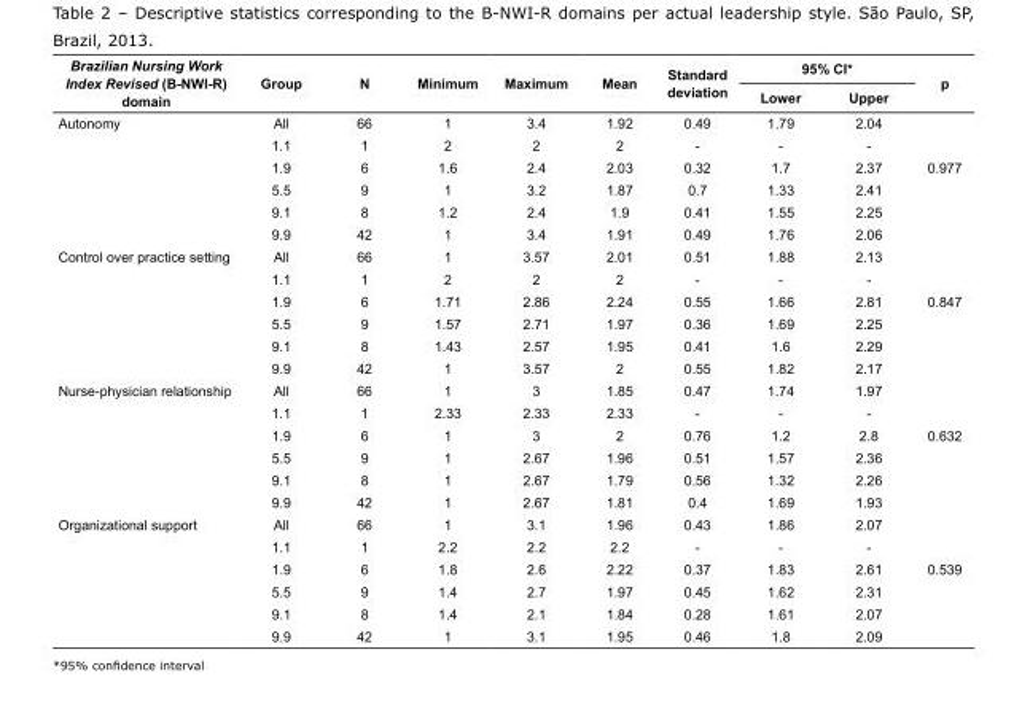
<table><thead><tr><td rowspan="2">Brazilian Nursing Work Index Revised (B-NWI-R) domain</td><td rowspan="2">Group</td><td rowspan="2">N</td><td rowspan="2">Minimum</td><td rowspan="2">Maximum</td><td rowspan="2">Mean</td><td rowspan="2">Standard deviation</td><td colspan="2">95% CI*</td><td rowspan="2">p</td></tr><tr><td>Lower</td><td>Upper</td></tr></thead><tbody><tr><td rowspan="6">Autonomy</td><td>All</td><td>66</td><td>1</td><td>3.4</td><td>1.92</td><td>0.49</td><td>1.79</td><td>2.04</td><td></td></tr><tr><td>1.1</td><td>1</td><td>2</td><td>2</td><td>2</td><td>-</td><td>-</td><td>-</td><td></td></tr><tr><td>1.9</td><td>6</td><td>1.6</td><td>2.4</td><td>2.03</td><td>0.32</td><td>1.7</td><td>2.37</td><td>0.977</td></tr><tr><td>5.5</td><td>9</td><td>1</td><td>3.2</td><td>1.87</td><td>0.7</td><td>1.33</td><td>2.41</td><td></td></tr><tr><td>9.1</td><td>8</td><td>1.2</td><td>2.4</td><td>1.9</td><td>0.41</td><td>1.55</td><td>2.25</td><td></td></tr><tr><td>9.9</td><td>42</td><td>1</td><td>3.4</td><td>1.91</td><td>0.49</td><td>1.76</td><td>2.06</td><td></td></tr><tr><td rowspan="6">Control over practice setting</td><td>All</td><td>66</td><td>1</td><td>3.57</td><td>2.01</td><td>0.51</td><td>1.88</td><td>2.13</td><td></td></tr><tr><td>1.1</td><td>1</td><td>2</td><td>2</td><td>2</td><td>-</td><td>-</td><td>-</td><td></td></tr><tr><td>1.9</td><td>6</td><td>1.71</td><td>2.86</td><td>2.24</td><td>0.55</td><td>1.66</td><td>2.81</td><td>0.847</td></tr><tr><td>5.5</td><td>9</td><td>1.57</td><td>2.71</td><td>1.97</td><td>0.36</td><td>1.69</td><td>2.25</td><td></td></tr><tr><td>9.1</td><td>8</td><td>1.43</td><td>2.57</td><td>1.95</td><td>0.41</td><td>1.6</td><td>2.29</td><td></td></tr><tr><td>9.9</td><td>42</td><td>1</td><td>3.57</td><td>2</td><td>0.55</td><td>1.82</td><td>2.17</td><td></td></tr><tr><td rowspan="6">Nurse-physician relationship</td><td>All</td><td>66</td><td>1</td><td>3</td><td>1.85</td><td>0.47</td><td>1.74</td><td>1.97</td><td></td></tr><tr><td>1.1</td><td>1</td><td>2.33</td><td>2.33</td><td>2.33</td><td>-</td><td>-</td><td>-</td><td></td></tr><tr><td>1.9</td><td>6</td><td>1</td><td>3</td><td>2</td><td>0.76</td><td>1.2</td><td>2.8</td><td>0.632</td></tr><tr><td>5.5</td><td>9</td><td>1</td><td>2.67</td><td>1.96</td><td>0.51</td><td>1.57</td><td>2.36</td><td></td></tr><tr><td>9.1</td><td>8</td><td>1</td><td>2.67</td><td>1.79</td><td>0.56</td><td>1.32</td><td>2.26</td><td></td></tr><tr><td>9.9</td><td>42</td><td>1</td><td>2.67</td><td>1.81</td><td>0.4</td><td>1.69</td><td>1.93</td><td></td></tr><tr><td rowspan="6">Organizational support</td><td>All</td><td>66</td><td>1</td><td>3.1</td><td>1.96</td><td>0.43</td><td>1.86</td><td>2.07</td><td></td></tr><tr><td>1.1</td><td>1</td><td>2.2</td><td>2.2</td><td>2.2</td><td>-</td><td>-</td><td>-</td><td></td></tr><tr><td>1.9</td><td>6</td><td>1.8</td><td>2.6</td><td>2.22</td><td>0.37</td><td>1.83</td><td>2.61</td><td>0.539</td></tr><tr><td>5.5</td><td>9</td><td>1.4</td><td>2.7</td><td>1.97</td><td>0.45</td><td>1.62</td><td>2.31</td><td></td></tr><tr><td>9.1</td><td>8</td><td>1.4</td><td>2.1</td><td>1.84</td><td>0.28</td><td>1.61</td><td>2.07</td><td></td></tr><tr><td>9.9</td><td>42</td><td>1</td><td>3.1</td><td>1.95</td><td>0.46</td><td>1.8</td><td>2.09</td><td></td></tr></tbody></table>